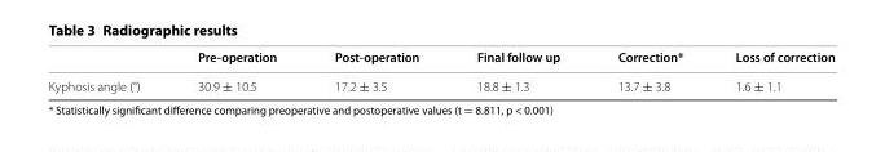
<table><thead><tr><td></td><td>Pre‑operation</td><td>Post‑operation</td><td>Final follow up</td><td>Correction*</td><td>Loss of correction</td></tr></thead><tbody><tr><td>Kyphosis angle (°)</td><td>30.9 ± 10.5</td><td>17.2 ± 3.5</td><td>18.8 ± 1.3</td><td>13.7 ± 3.8</td><td>1.6 ± 1.1</td></tr></tbody></table>